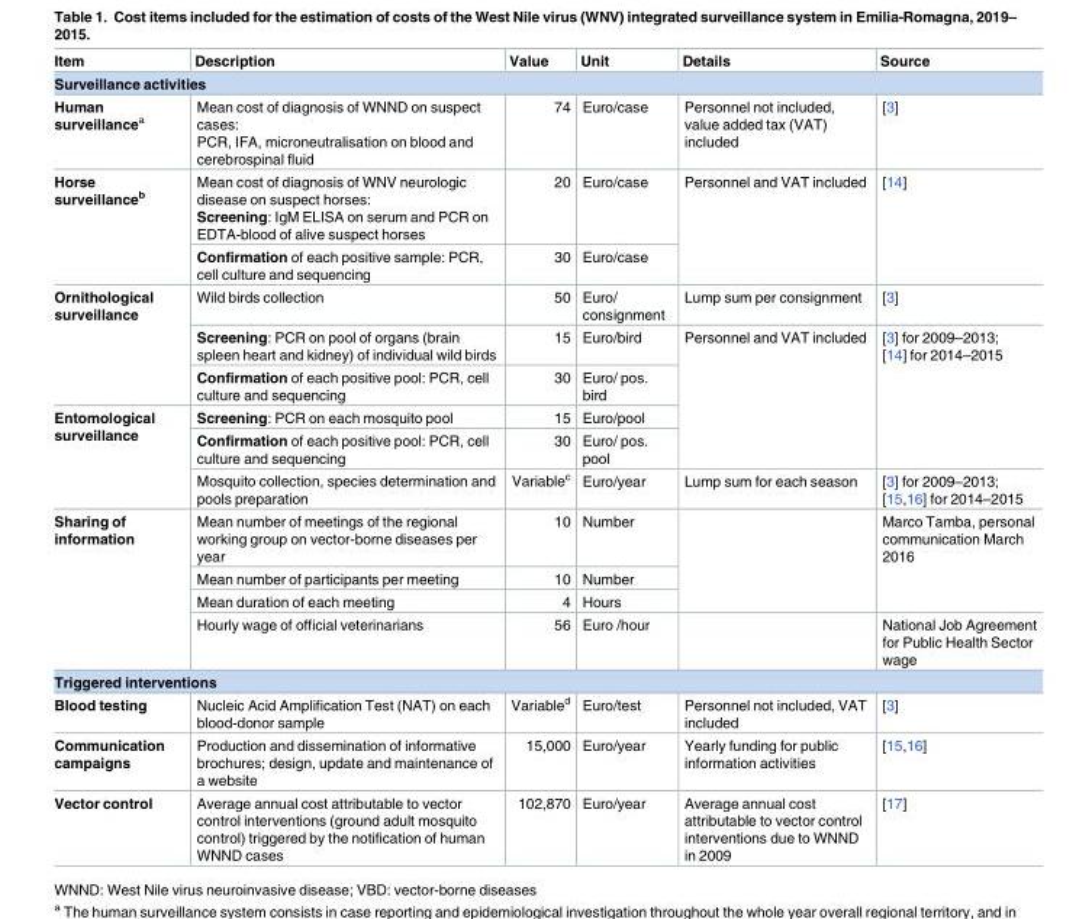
<table><thead><tr><td>Item</td><td>Description</td><td>Value</td><td>Unit</td><td>Details</td><td>Source</td></tr></thead><tbody><tr><td colspan="6">Surveillance activities</td></tr><tr><td>Human surveillance<sup>a</sup></td><td>Mean cost of diagnosis of WNND on suspect cases: PCR, IFA, microneutralisation on blood and cerebrospinal fluid</td><td>74</td><td>Euro/case</td><td>Personnel not included, value added tax (VAT) included</td><td>[3]</td></tr><tr><td rowspan="2">Horse surveillance<sup>b</sup></td><td>Mean cost of diagnosis of WNV neurologic disease on suspect horses: Screening: IgM ELISA on serum and PCR on EDTA-blood of alive suspect horses</td><td>20</td><td>Euro/case</td><td rowspan="2">Personnel and VAT included</td><td rowspan="2">[14]</td></tr><tr><td>Confirmation of each positive sample: PCR, cell culture and sequencing</td><td>30</td><td>Euro/case</td></tr><tr><td rowspan="3">Ornithological surveillance</td><td>Wild birds collection</td><td>50</td><td>Euro/ consignment</td><td>Lump sum per consignment</td><td>[3]</td></tr><tr><td>Screening: PCR on pool of organs (brain spleen heart and kidney) of individual wild birds</td><td>15</td><td>Euro/bird</td><td rowspan="4">Personnel and VAT included</td><td rowspan="4">[3] for 2009–2013; [14] for 2014–2015</td></tr><tr><td>Confirmation of each positive pool: PCR, cell culture and sequencing</td><td>30</td><td>Euro/ pos. bird</td></tr><tr><td rowspan="3">Entomological surveillance</td><td>Screening: PCR on each mosquito pool</td><td>15</td><td>Euro/pool</td></tr><tr><td>Confirmation of each positive pool: PCR, cell culture and sequencing</td><td>30</td><td>Euro/ pos. pool</td></tr><tr><td>Mosquito collection, species determination and pools preparation</td><td>Variable<sup>c</sup></td><td>Euro/year</td><td>Lump sum for each season</td><td>[3] for 2009–2013; [15,16] for 2014–2015</td></tr><tr><td rowspan="4">Sharing of information</td><td>Mean number of meetings of the regional working group on vector-borne diseases per year</td><td>10</td><td>Number</td><td rowspan="3"></td><td rowspan="3">Marco Tamba, personal communication March 2016</td></tr><tr><td>Mean number of participants per meeting</td><td>10</td><td>Number</td></tr><tr><td>Mean duration of each meeting</td><td>4</td><td>Hours</td></tr><tr><td>Hourly wage of official veterinarians</td><td>56</td><td>Euro /hour</td><td></td><td>National Job Agreement for Public Health Sector wage</td></tr><tr><td colspan="6">Triggered interventions</td></tr><tr><td>Blood testing</td><td>Nucleic Acid Amplification Test (NAT) on each blood-donor sample</td><td>Variable<sup>d</sup></td><td>Euro/test</td><td>Personnel not included, VAT included</td><td>[3]</td></tr><tr><td>Communication campaigns</td><td>Production and dissemination of informative brochures; design, update and maintenance of a website</td><td>15,000</td><td>Euro/year</td><td>Yearly funding for public information activities</td><td>[15,16]</td></tr><tr><td>Vector control</td><td>Average annual cost attributable to vector control interventions (ground adult mosquito control) triggered by the notification of human WNND cases</td><td>102,870</td><td>Euro/year</td><td>Average annual cost attributable to vector control interventions due to WNND in 2009</td><td>[17]</td></tr></tbody></table>